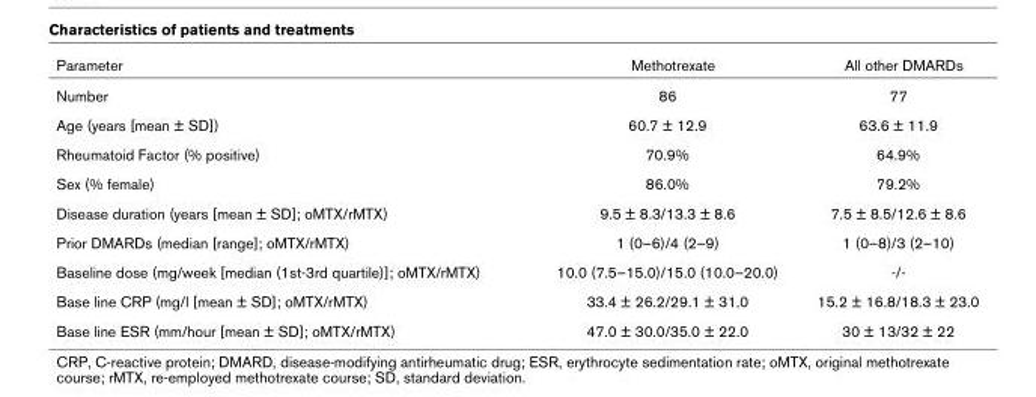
<table><thead><tr><td>Parameter</td><td>Methotrexate</td><td>All other DMARDs</td></tr></thead><tbody><tr><td>Number</td><td>86</td><td>77</td></tr><tr><td>Age (years [mean ± SD])</td><td>60.7 ± 12.9</td><td>63.6 ± 11.9</td></tr><tr><td>Rheumatoid Factor (% positive)</td><td>70.9%</td><td>64.9%</td></tr><tr><td>Sex (% female)</td><td>86.0%</td><td>79.2%</td></tr><tr><td>Disease duration (years [mean ± SD]; oMTX/rMTX)</td><td>9.5 ± 8.3/13.3 ± 8.6</td><td>7.5 ± 8.5/12.6 ± 8.6</td></tr><tr><td>Prior DMARDs (median [range]; oMTX/rMTX)</td><td>1 (0–6)/4 (2–9)</td><td>1 (0–8)/3 (2–10)</td></tr><tr><td>Baseline dose (mg/week [median (1st-3rd quartile)]; oMTX/rMTX)</td><td>10.0 (7.5–15.0)/15.0 (10.0–20.0)</td><td>-/-</td></tr><tr><td>Base line CRP (mg/l [mean ± SD]; oMTX/rMTX)</td><td>33.4 ± 26.2/29.1 ± 31.0</td><td>15.2 ± 16.8/18.3 ± 23.0</td></tr><tr><td>Base line ESR (mm/hour [mean ± SD]; oMTX/rMTX)</td><td>47.0 ± 30.0/35.0 ± 22.0</td><td>30 ± 13/32 ± 22</td></tr></tbody></table>